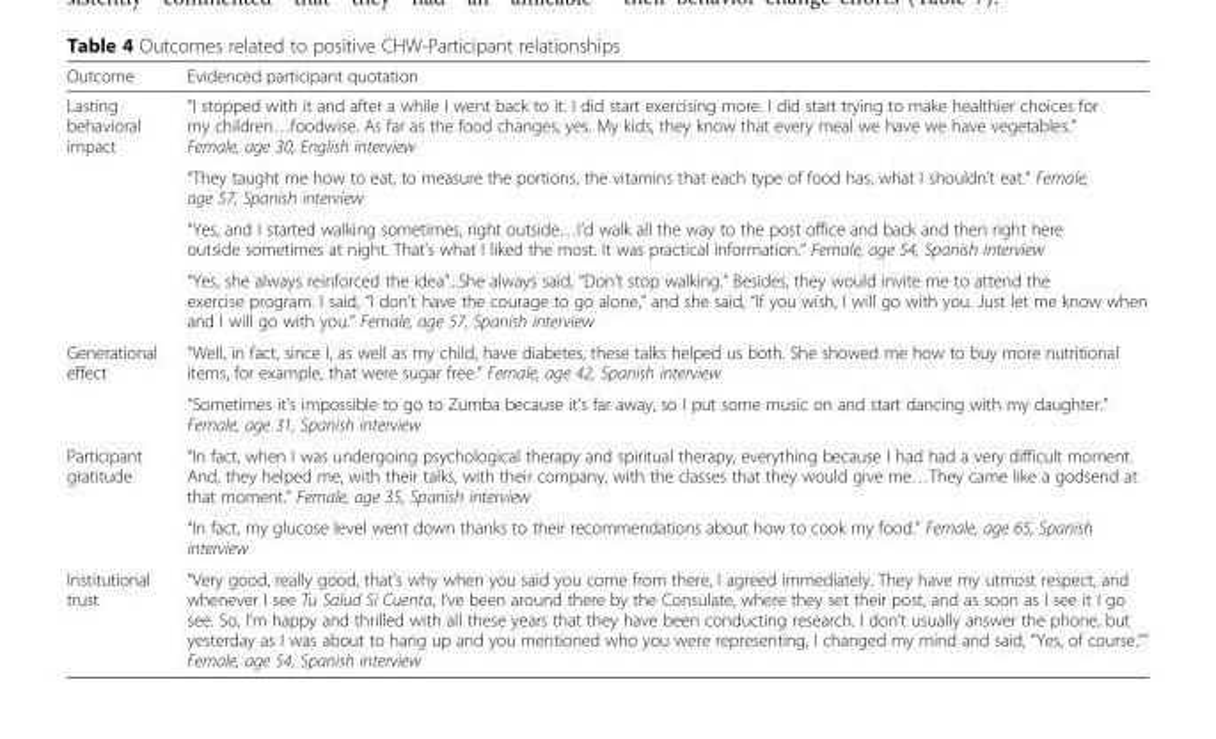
<table><thead><tr><td>Outcome</td><td>Evidenced participant quotation</td></tr></thead><tbody><tr><td rowspan="4">Lasting behavioral impact</td><td>“I stopped with it and after a while I went back to it. I did start exercising more. I did start trying to make healthier choices for my children…foodwise. As far as the food changes, yes. My kids, they know that every meal we have we have vegetables.” Female, age 30, English interview</td></tr><tr><td>“They taught me how to eat, to measure the portions, the vitamins that each type of food has, what I shouldn’t eat.” Female, age 57, Spanish interview</td></tr><tr><td>“Yes, and I started walking sometimes, right outside…I’d walk all the way to the post office and back and then right here outside sometimes at night. That’s what I liked the most. It was practical information.” Female, age 54, Spanish interview</td></tr><tr><td>“Yes, she always reinforced the idea”...She always said, “Don’t stop walking.” Besides, they would invite me to attend the exercise program. I said, “I don’t have the courage to go alone,” and she said, “If you wish, I will go with you. Just let me know when and I will go with you.” Female, age 57, Spanish interview</td></tr><tr><td rowspan="2">Generational effect</td><td>“Well, in fact, since I, as well as my child, have diabetes, these talks helped us both. She showed me how to buy more nutritional items, for example, that were sugar free.” Female, age 42, Spanish interview</td></tr><tr><td>“Sometimes it’s impossible to go to Zumba because it’s far away, so I put some music on and start dancing with my daughter.” Female, age 31, Spanish interview</td></tr><tr><td rowspan="2">Participant gratitude</td><td>“In fact, when I was undergoing psychological therapy and spiritual therapy, everything because I had had a very difficult moment. And, they helped me, with their talks, with their company, with the classes that they would give me…They came like a godsend at that moment.” Female, age 35, Spanish interview</td></tr><tr><td>“In fact, my glucose level went down thanks to their recommendations about how to cook my food.” Female, age 65, Spanish interview</td></tr><tr><td>Institutional trust</td><td>“Very good, really good, that’s why when you said you come from there, I agreed immediately. They have my utmost respect, and whenever I see Tu Salud Si Cuenta, I’ve been around there by the Consulate, where they set their post, and as soon as I see it I go see. So, I’m happy and thrilled with all these years that they have been conducting research. I don’t usually answer the phone, but yesterday as I was about to hang up and you mentioned who you were representing, I changed my mind and said, “Yes, of course.”” Female, age 54, Spanish interview</td></tr></tbody></table>